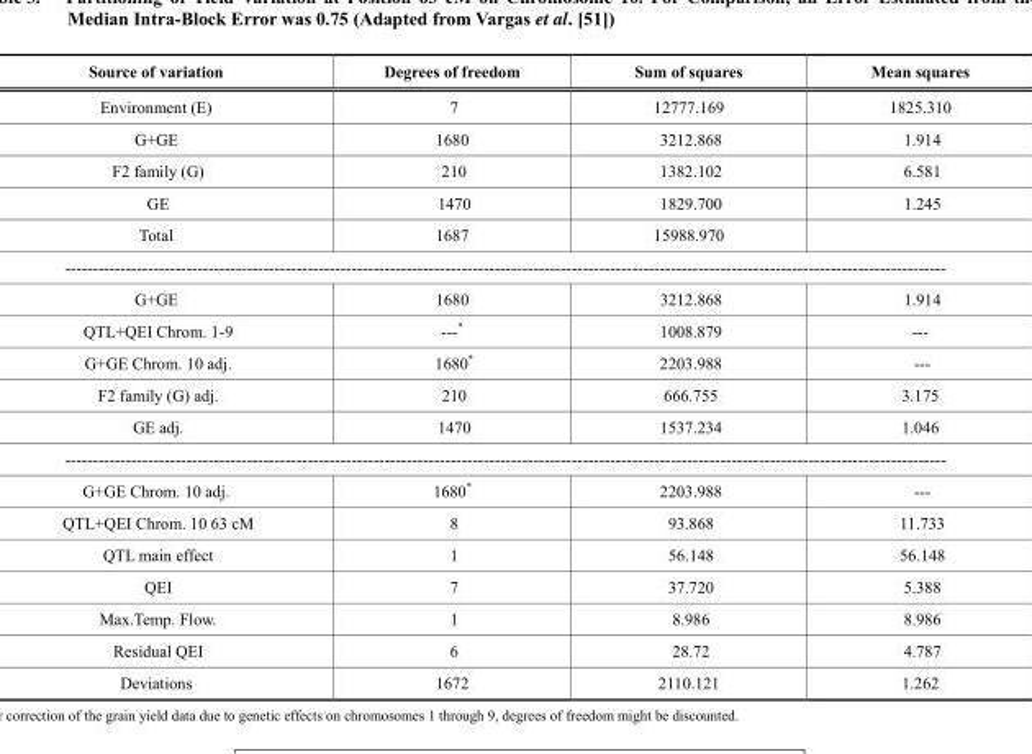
<table><thead><tr><td>Source of variation</td><td>Degrees of freedom</td><td>Sum of squares</td><td>Mean squares</td></tr></thead><tbody><tr><td>Environment (E)</td><td>7</td><td>12777.169</td><td>1825.310</td></tr><tr><td>G+GE</td><td>1680</td><td>3212.868</td><td>1.914</td></tr><tr><td>F2 family (G)</td><td>210</td><td>1382.102</td><td>6.581</td></tr><tr><td>GE</td><td>1470</td><td>1829.700</td><td>1.245</td></tr><tr><td>Total</td><td>1687</td><td>15988.970</td><td></td></tr><tr><td colspan="4">----------------------------------------------------------------------------------------------------------------------------------------------------------------</td></tr><tr><td>G+GE</td><td>1680</td><td>3212.868</td><td>1.914</td></tr><tr><td>QTL+QEI Chrom. 1-9</td><td>---*</td><td>1008.879</td><td>---</td></tr><tr><td>G+GE Chrom. 10 adj.</td><td>1680*</td><td>2203.988</td><td>---</td></tr><tr><td>F2 family (G) adj.</td><td>210</td><td>666.755</td><td>3.175</td></tr><tr><td>GE adj.</td><td>1470</td><td>1537.234</td><td>1.046</td></tr><tr><td colspan="4">----------------------------------------------------------------------------------------------------------------------------------------------------------------</td></tr><tr><td>G+GE Chrom. 10 adj.</td><td>1680*</td><td>2203.988</td><td>---</td></tr><tr><td>QTL+QEI Chrom. 10 63 cM</td><td>8</td><td>93.868</td><td>11.733</td></tr><tr><td>QTL main effect</td><td>1</td><td>56.148</td><td>56.148</td></tr><tr><td>QEI</td><td>7</td><td>37.720</td><td>5.388</td></tr><tr><td>Max.Temp. Flow.</td><td>1</td><td>8.986</td><td>8.986</td></tr><tr><td>Residual QEI</td><td>6</td><td>28.72</td><td>4.787</td></tr><tr><td>Deviations</td><td>1672</td><td>2110.121</td><td>1.262</td></tr></tbody></table>